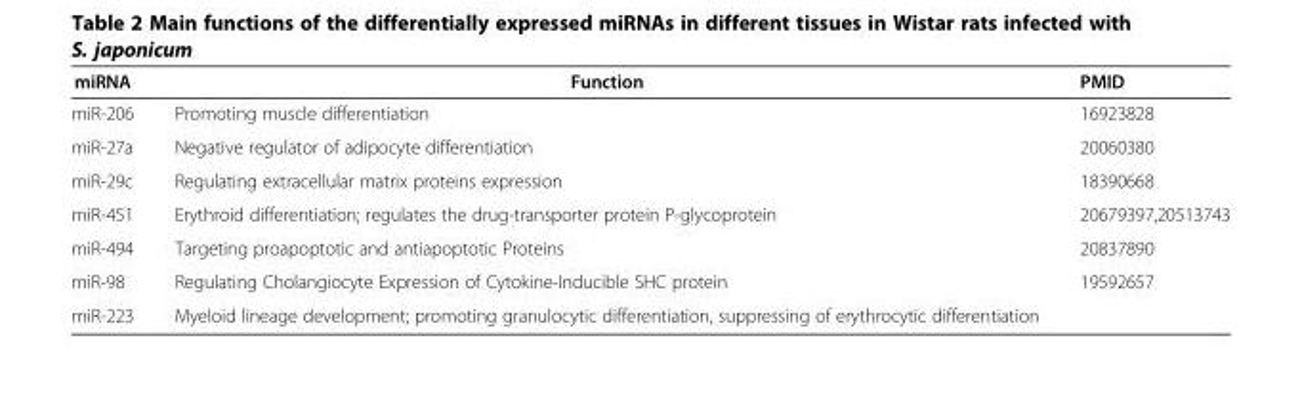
<table><thead><tr><td>miRNA</td><td>Function</td><td>PMID</td></tr></thead><tbody><tr><td>miR-206</td><td>Promoting muscle differentiation</td><td>16923828</td></tr><tr><td>miR-27a</td><td>Negative regulator of adipocyte differentiation</td><td>20060380</td></tr><tr><td>miR-29c</td><td>Regulating extracellular matrix proteins expression</td><td>18390668</td></tr><tr><td>miR-451</td><td>Erythroid differentiation; regulates the drug-transporter protein P-glycoprotein</td><td>20679397,20513743</td></tr><tr><td>miR-494</td><td>Targeting proapoptotic and antiapoptotic Proteins</td><td>20837890</td></tr><tr><td>miR-98</td><td>Regulating Cholangiocyte Expression of Cytokine-Inducible SHC protein</td><td>19592657</td></tr><tr><td>miR-223</td><td>Myeloid lineage development; promoting granulocytic differentiation, suppressing of erythrocytic differentiation</td><td></td></tr></tbody></table>